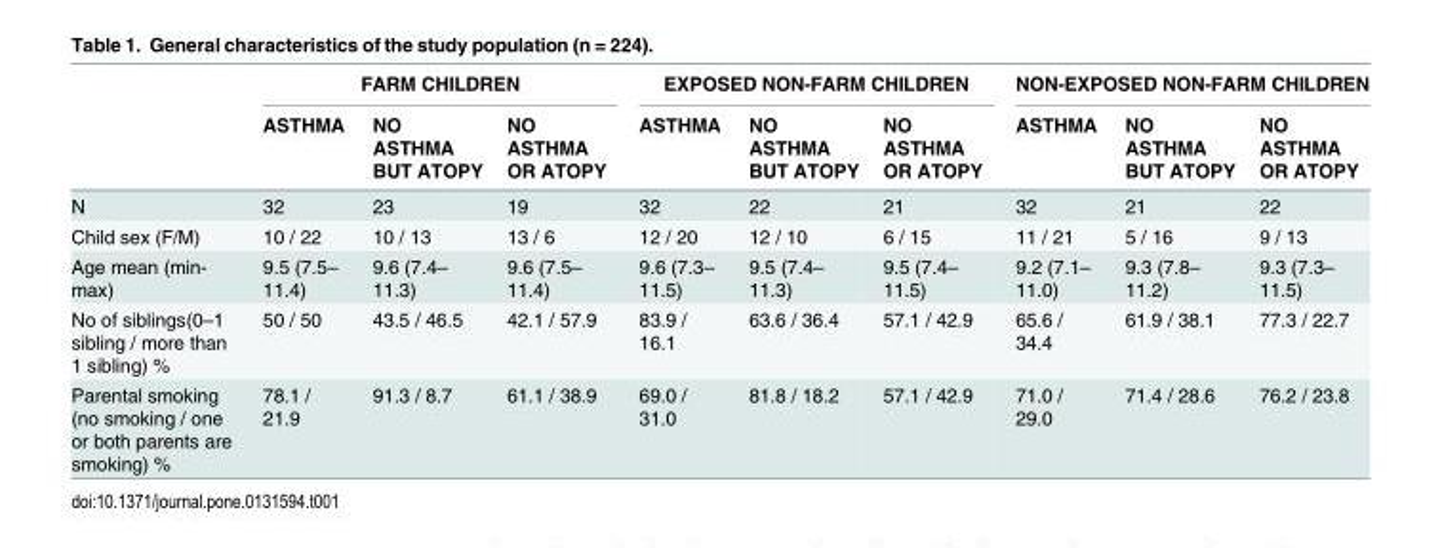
<table><thead><tr><td rowspan="2"></td><td colspan="3">FARM CHILDREN</td><td colspan="3">EXPOSED NON-FARM CHILDREN</td><td colspan="3">NON-EXPOSED NON-FARM CHILDREN</td></tr><tr><td>ASTHMA</td><td>NO ASTHMA BUT ATOPY</td><td>NO ASTHMA OR ATOPY</td><td>ASTHMA</td><td>NO ASTHMA BUT ATOPY</td><td>NO ASTHMA OR ATOPY</td><td>ASTHMA</td><td>NO ASTHMA BUT ATOPY</td><td>NO ASTHMA OR ATOPY</td></tr></thead><tbody><tr><td>N</td><td>32</td><td>23</td><td>19</td><td>32</td><td>22</td><td>21</td><td>32</td><td>21</td><td>22</td></tr><tr><td>Child sex (F/M)</td><td>10 / 22</td><td>10 / 13</td><td>13 / 6</td><td>12 / 20</td><td>12 / 10</td><td>6 / 15</td><td>11 / 21</td><td>5 / 16</td><td>9 / 13</td></tr><tr><td>Age mean (min- max)</td><td>9.5 (7.5– 11.4)</td><td>9.6 (7.4– 11.3)</td><td>9.6 (7.5– 11.4)</td><td>9.6 (7.3– 11.5)</td><td>9.5 (7.4– 11.3)</td><td>9.5 (7.4– 11.5)</td><td>9.2 (7.1– 11.0)</td><td>9.3 (7.8– 11.2)</td><td>9.3 (7.3– 11.5)</td></tr><tr><td>No of siblings(0–1 sibling / more than 1 sibling) %</td><td>50 / 50</td><td>43.5 / 46.5</td><td>42.1 / 57.9</td><td>83.9 / 16.1</td><td>63.6 / 36.4</td><td>57.1 / 42.9</td><td>65.6 / 34.4</td><td>61.9 / 38.1</td><td>77.3 / 22.7</td></tr><tr><td>Parental smoking (no smoking / one or both parents are smoking) %</td><td>78.1 / 21.9</td><td>91.3 / 8.7</td><td>61.1 / 38.9</td><td>69.0 / 31.0</td><td>81.8 / 18.2</td><td>57.1 / 42.9</td><td>71.0 / 29.0</td><td>71.4 / 28.6</td><td>76.2 / 23.8</td></tr></tbody></table>